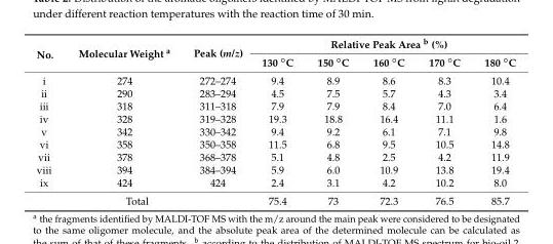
<table><thead><tr><td rowspan="2">No.</td><td rowspan="2">Molecular Weight a</td><td rowspan="2">Peak (m/z)</td><td colspan="5">Relative Peak Area b (%)</td></tr><tr><td>130 ◦C</td><td>150 ◦C</td><td>160 ◦C</td><td>170 ◦C</td><td>180 ◦C</td></tr></thead><tbody><tr><td>i</td><td>274</td><td>272–274</td><td>9.4</td><td>8.9</td><td>8.6</td><td>8.3</td><td>10.4</td></tr><tr><td>ii</td><td>290</td><td>283–294</td><td>4.5</td><td>7.5</td><td>5.7</td><td>4.3</td><td>3.4</td></tr><tr><td>iii</td><td>318</td><td>311–318</td><td>7.9</td><td>7.9</td><td>8.4</td><td>7.0</td><td>6.4</td></tr><tr><td>iv</td><td>328</td><td>319–328</td><td>19.3</td><td>18.8</td><td>16.4</td><td>11.1</td><td>1.6</td></tr><tr><td>v</td><td>342</td><td>330–342</td><td>9.4</td><td>9.2</td><td>6.1</td><td>7.1</td><td>9.8</td></tr><tr><td>vi</td><td>358</td><td>350–358</td><td>11.5</td><td>6.8</td><td>9.5</td><td>10.5</td><td>14.8</td></tr><tr><td>vii</td><td>378</td><td>368–378</td><td>5.1</td><td>4.8</td><td>2.5</td><td>4.2</td><td>11.9</td></tr><tr><td>viii</td><td>394</td><td>384–394</td><td>5.9</td><td>6.0</td><td>10.9</td><td>13.8</td><td>19.4</td></tr><tr><td>ix</td><td>424</td><td>424</td><td>2.4</td><td>3.1</td><td>4.2</td><td>10.2</td><td>8.0</td></tr><tr><td colspan="3">Total</td><td>75.4</td><td>73</td><td>72.3</td><td>76.5</td><td>85.7</td></tr></tbody></table>